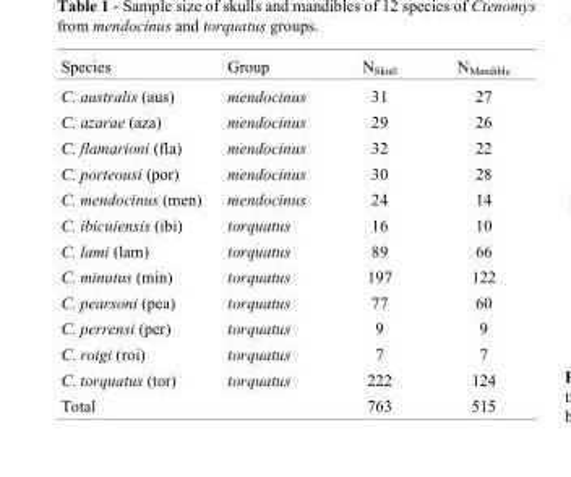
<table><thead><tr><td>Species</td><td>Group</td><td>N<sub>Skull</sub></td><td>N<sub>Mandible</sub></td></tr></thead><tbody><tr><td>C. australis (aus)</td><td>mendocinus</td><td>31</td><td>27</td></tr><tr><td>C. azarae (aza)</td><td>mendocinus</td><td>29</td><td>26</td></tr><tr><td>C. flamarioni (fla)</td><td>mendocinus</td><td>32</td><td>22</td></tr><tr><td>C. porteousi (por)</td><td>mendocinus</td><td>30</td><td>28</td></tr><tr><td>C. mendocinus (men)</td><td>mendocinus</td><td>24</td><td>14</td></tr><tr><td>C. ibicuiensis (ibi)</td><td>torquatus</td><td>16</td><td>10</td></tr><tr><td>C. lami (lam)</td><td>torquatus</td><td>89</td><td>66</td></tr><tr><td>C. minutus (min)</td><td>torquatus</td><td>197</td><td>122</td></tr><tr><td>C. pearsoni (pea)</td><td>torquatus</td><td>77</td><td>60</td></tr><tr><td>C. perrensi (per)</td><td>torquatus</td><td>9</td><td>9</td></tr><tr><td>C. roigi (roi)</td><td>torquatus</td><td>7</td><td>7</td></tr><tr><td>C. torquatus (tor)</td><td>torquatus</td><td>222</td><td>124</td></tr><tr><td>Total</td><td></td><td>763</td><td>515</td></tr></tbody></table>